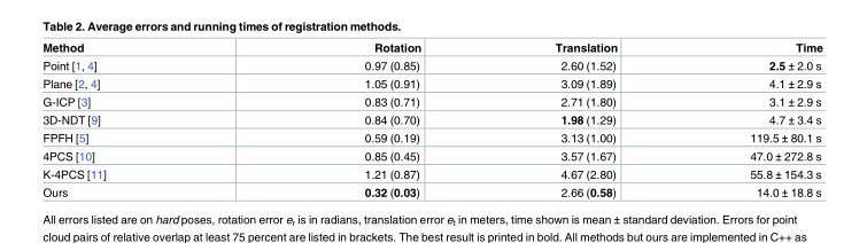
<table><thead><tr><td>Method</td><td>Rotation</td><td>Translation</td><td>Time</td></tr></thead><tbody><tr><td>Point [1, 4]</td><td>0.97 (0.85)</td><td>2.60 (1.52)</td><td>2.5 ± 2.0 s</td></tr><tr><td>Plane [2, 4]</td><td>1.05 (0.91)</td><td>3.09 (1.89)</td><td>4.1 ± 2.9 s</td></tr><tr><td>G-ICP [3]</td><td>0.83 (0.71)</td><td>2.71 (1.80)</td><td>3.1 ± 2.9 s</td></tr><tr><td>3D-NDT [9]</td><td>0.84 (0.70)</td><td>1.98 (1.29)</td><td>4.7 ± 3.4 s</td></tr><tr><td>FPFH [5]</td><td>0.59 (0.19)</td><td>3.13 (1.00)</td><td>119.5 ± 80.1 s</td></tr><tr><td>4PCS [10]</td><td>0.85 (0.45)</td><td>3.57 (1.67)</td><td>47.0 ± 272.8 s</td></tr><tr><td>K-4PCS [11]</td><td>1.21 (0.87)</td><td>4.67 (2.80)</td><td>55.8 ± 154.3 s</td></tr><tr><td>Ours</td><td>0.32 (0.03)</td><td>2.66 (0.58)</td><td>14.0 ± 18.8 s</td></tr></tbody></table>